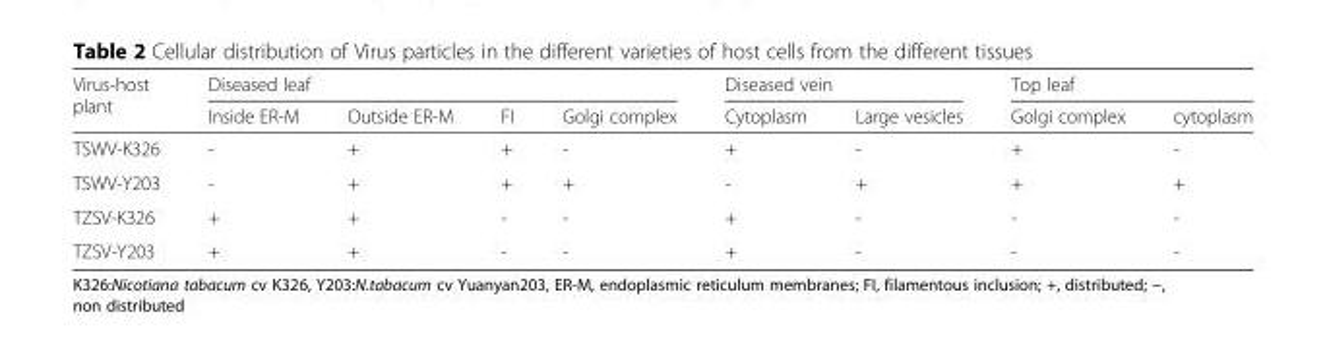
<table><thead><tr><td rowspan="2">Virus-host plant</td><td colspan="4">Diseased leaf</td><td colspan="2">Diseased vein</td><td colspan="2">Top leaf</td></tr><tr><td>Inside ER-M</td><td>Outside ER-M</td><td>FI</td><td>Golgi complex</td><td>Cytoplasm</td><td>Large vesicles</td><td>Golgi complex</td><td>cytoplasm</td></tr></thead><tbody><tr><td>TSWV-K326</td><td>-</td><td>+</td><td>+</td><td>-</td><td>+</td><td>-</td><td>+</td><td>-</td></tr><tr><td>TSWV-Y203</td><td>-</td><td>+</td><td>+</td><td>+</td><td>-</td><td>+</td><td>+</td><td>+</td></tr><tr><td>TZSV-K326</td><td>+</td><td>+</td><td>-</td><td>-</td><td>+</td><td>-</td><td>-</td><td>-</td></tr><tr><td>TZSV-Y203</td><td>+</td><td>+</td><td>-</td><td>-</td><td>+</td><td>-</td><td>-</td><td>-</td></tr></tbody></table>